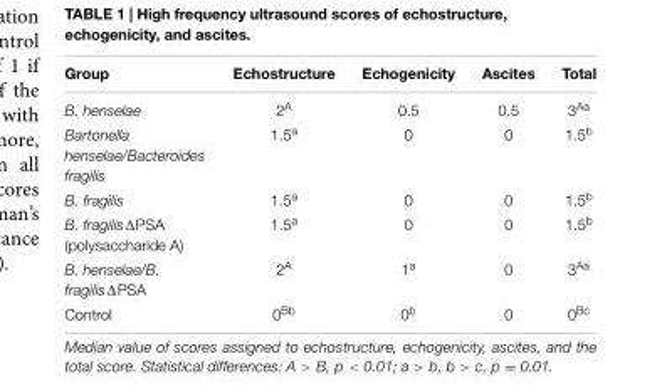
<table><thead><tr><td>Group</td><td>Echostructure</td><td>Echogenicity</td><td>Ascites</td><td>Total</td></tr></thead><tbody><tr><td>B. henselae</td><td>2<sup>A</sup></td><td>0.5</td><td>0.5</td><td>3<sup>Aa</sup></td></tr><tr><td>Bartonella henselae/Bacteroides fragilis</td><td>1.5<sup>a</sup></td><td>0</td><td>0</td><td>1.5<sup>b</sup></td></tr><tr><td>B. fragilis</td><td>1.5<sup>a</sup></td><td>0</td><td>0</td><td>1.5<sup>b</sup></td></tr><tr><td>B. fragilisΔPSA (polysaccharide A)</td><td>1.5<sup>a</sup></td><td>0</td><td>0</td><td>1.5<sup>b</sup></td></tr><tr><td>B. henselae/B. fragilisΔPSA</td><td>2<sup>A</sup></td><td>1<sup>a</sup></td><td>0</td><td>3<sup>Aa</sup></td></tr><tr><td>Control</td><td>0<sup>Bb</sup></td><td>0<sup>b</sup></td><td>0</td><td>0<sup>Bc</sup></td></tr></tbody></table>